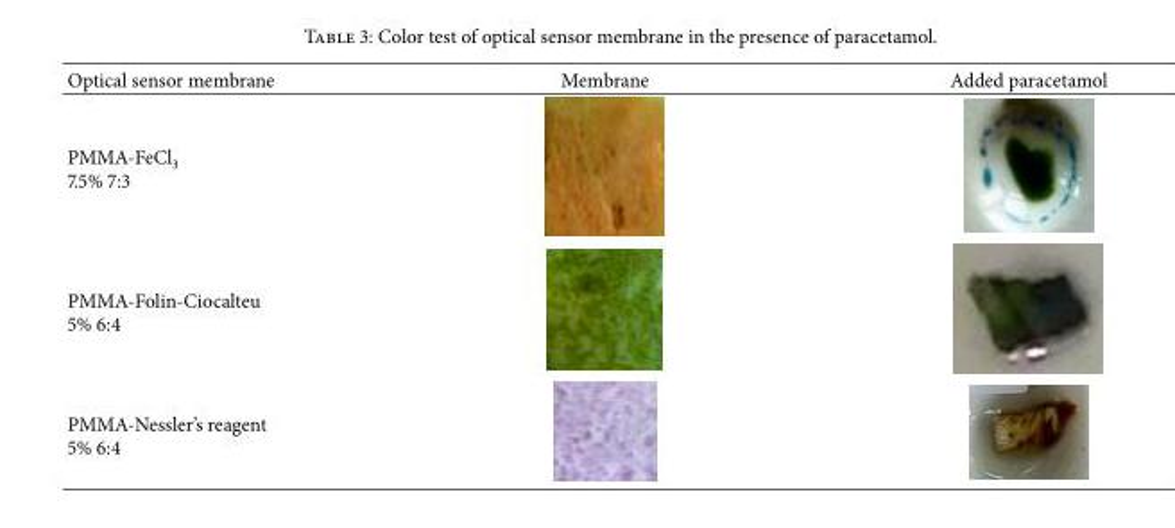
<table><thead><tr><td>Optical sensor membrane</td><td>Membrane</td><td>Added paracetamol</td></tr></thead><tbody><tr><td colspan="3">PMMA-FeCl<sub>3</sub> 7.5% 7:3</td></tr><tr><td colspan="3">PMMA-Folin-Ciocalteu 5% 6:4</td></tr><tr><td>PMMA-Nessler’s reagent 5% 6:4</td><td></td><td></td></tr></tbody></table>